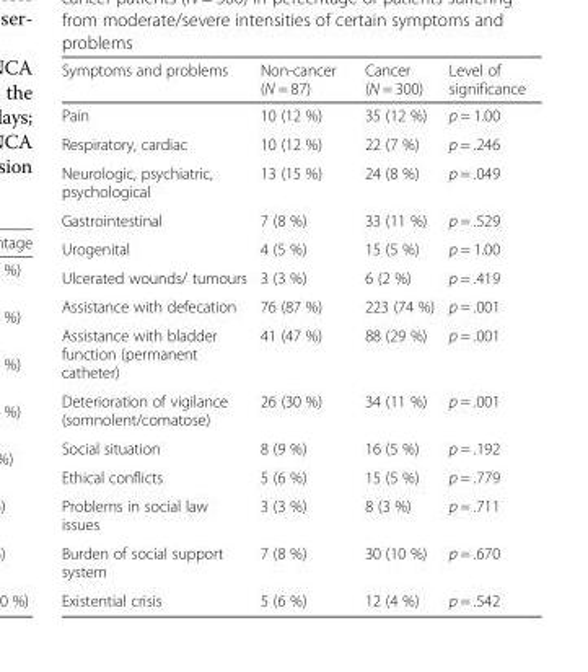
<table><thead><tr><td>Symptoms and problems</td><td>Non-cancer (N = 87)</td><td>Cancer (N = 300)</td><td>Level of significance</td></tr></thead><tbody><tr><td>Pain</td><td>10 (12 %)</td><td>35 (12 %)</td><td>p = 1.00</td></tr><tr><td>Respiratory, cardiac</td><td>10 (12 %)</td><td>22 (7 %)</td><td>p = .246</td></tr><tr><td>Neurologic, psychiatric, psychological</td><td>13 (15 %)</td><td>24 (8 %)</td><td>p = .049</td></tr><tr><td>Gastrointestinal</td><td>7 (8 %)</td><td>33 (11 %)</td><td>p = .529</td></tr><tr><td>Urogenital</td><td>4 (5 %)</td><td>15 (5 %)</td><td>p = 1.00</td></tr><tr><td>Ulcerated wounds/ tumours</td><td>3 (3 %)</td><td>6 (2 %)</td><td>p = .419</td></tr><tr><td>Assistance with defecation</td><td>76 (87 %)</td><td>223 (74 %)</td><td>p = .001</td></tr><tr><td>Assistance with bladder function (permanent catheter)</td><td>41 (47 %)</td><td>88 (29 %)</td><td>p = .001</td></tr><tr><td>Deterioration of vigilance (somnolent/comatose)</td><td>26 (30 %)</td><td>34 (11 %)</td><td>p = .001</td></tr><tr><td>Social situation</td><td>8 (9 %)</td><td>16 (5 %)</td><td>p = .192</td></tr><tr><td>Ethical conflicts</td><td>5 (6 %)</td><td>15 (5 %)</td><td>p = .779</td></tr><tr><td>Problems in social law issues</td><td>3 (3 %)</td><td>8 (3 %)</td><td>p = .711</td></tr><tr><td>Burden of social support system</td><td>7 (8 %)</td><td>30 (10 %)</td><td>p = .670</td></tr><tr><td>Existential crisis</td><td>5 (6 %)</td><td>12 (4 %)</td><td>p = .542</td></tr></tbody></table>